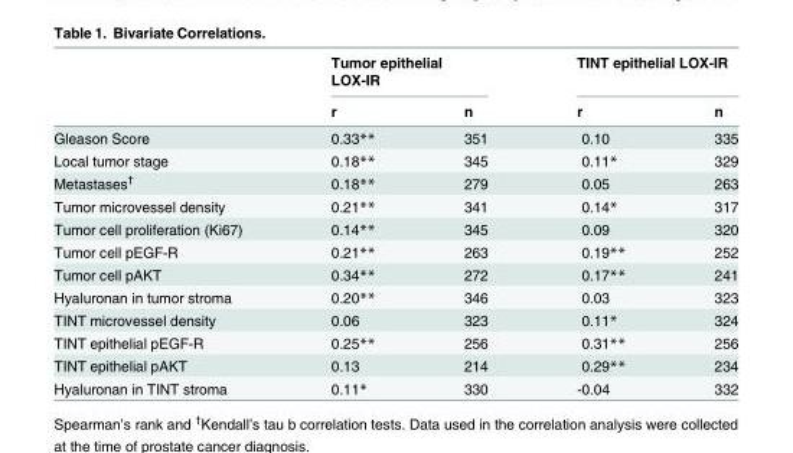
<table><thead><tr><td rowspan="2"></td><td colspan="2">Tumor epithelial LOX-IR</td><td colspan="2">TINT epithelial LOX-IR</td></tr><tr><td>r</td><td>n</td><td>r</td><td>n</td></tr></thead><tbody><tr><td>Gleason Score</td><td>0.33**</td><td>351</td><td>0.10</td><td>335</td></tr><tr><td>Local tumor stage</td><td>0.18**</td><td>345</td><td>0.11*</td><td>329</td></tr><tr><td>Metastases<sup>†</sup></td><td>0.18**</td><td>279</td><td>0.05</td><td>263</td></tr><tr><td>Tumor microvessel density</td><td>0.21**</td><td>341</td><td>0.14*</td><td>317</td></tr><tr><td>Tumor cell proliferation (Ki67)</td><td>0.14**</td><td>345</td><td>0.09</td><td>320</td></tr><tr><td>Tumor cell pEGF-R</td><td>0.21**</td><td>263</td><td>0.19**</td><td>252</td></tr><tr><td>Tumor cell pAKT</td><td>0.34**</td><td>272</td><td>0.17**</td><td>241</td></tr><tr><td>Hyaluronan in tumor stroma</td><td>0.20**</td><td>346</td><td>0.03</td><td>323</td></tr><tr><td>TINT microvessel density</td><td>0.06</td><td>323</td><td>0.11*</td><td>324</td></tr><tr><td>TINT epithelial pEGF-R</td><td>0.25**</td><td>256</td><td>0.31**</td><td>256</td></tr><tr><td>TINT epithelial pAKT</td><td>0.13</td><td>214</td><td>0.29**</td><td>234</td></tr><tr><td>Hyaluronan in TINT stroma</td><td>0.11*</td><td>330</td><td>-0.04</td><td>332</td></tr></tbody></table>